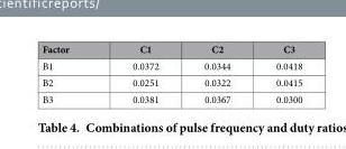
<table><thead><tr><td>Factor</td><td>C1</td><td>C2</td><td>C3</td></tr></thead><tbody><tr><td>B1</td><td>0.0372</td><td>0.0344</td><td>0.0418</td></tr><tr><td>B2</td><td>0.0251</td><td>0.0322</td><td>0.0415</td></tr><tr><td>B3</td><td>0.0381</td><td>0.0367</td><td>0.0300</td></tr></tbody></table>